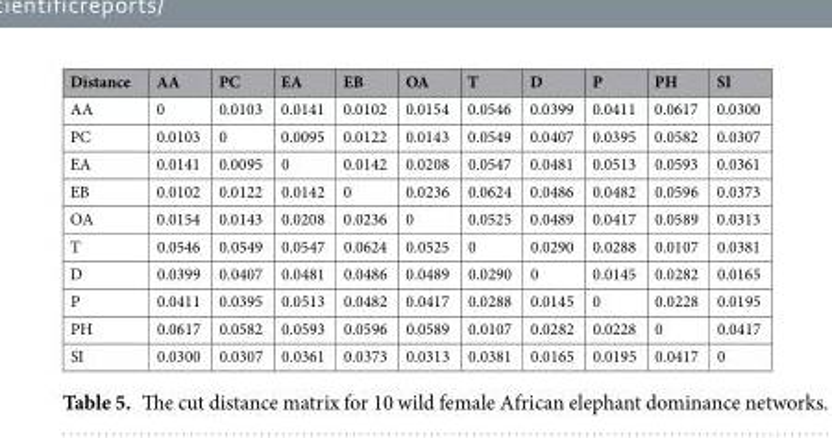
<table><thead><tr><td>Distance</td><td>AA</td><td>PC</td><td>EA</td><td>EB</td><td>OA</td><td>T</td><td>D</td><td>P</td><td>PH</td><td>SI</td></tr></thead><tbody><tr><td>AA</td><td>0</td><td>0.0103</td><td>0.0141</td><td>0.0102</td><td>0.0154</td><td>0.0546</td><td>0.0399</td><td>0.0411</td><td>0.0617</td><td>0.0300</td></tr><tr><td>PC</td><td>0.0103</td><td>0</td><td>0.0095</td><td>0.0122</td><td>0.0143</td><td>0.0549</td><td>0.0407</td><td>0.0395</td><td>0.0582</td><td>0.0307</td></tr><tr><td>EA</td><td>0.0141</td><td>0.0095</td><td>0</td><td>0.0142</td><td>0.0208</td><td>0.0547</td><td>0.0481</td><td>0.0513</td><td>0.0593</td><td>0.0361</td></tr><tr><td>EB</td><td>0.0102</td><td>0.0122</td><td>0.0142</td><td>0</td><td>0.0236</td><td>0.0624</td><td>0.0486</td><td>0.0482</td><td>0.0596</td><td>0.0373</td></tr><tr><td>OA</td><td>0.0154</td><td>0.0143</td><td>0.0208</td><td>0.0236</td><td>0</td><td>0.0525</td><td>0.0489</td><td>0.0417</td><td>0.0589</td><td>0.0313</td></tr><tr><td>T</td><td>0.0546</td><td>0.0549</td><td>0.0547</td><td>0.0624</td><td>0.0525</td><td>0</td><td>0.0290</td><td>0.0288</td><td>0.0107</td><td>0.0381</td></tr><tr><td>D</td><td>0.0399</td><td>0.0407</td><td>0.0481</td><td>0.0486</td><td>0.0489</td><td>0.0290</td><td>0</td><td>0.0145</td><td>0.0282</td><td>0.0165</td></tr><tr><td>P</td><td>0.0411</td><td>0.0395</td><td>0.0513</td><td>0.0482</td><td>0.0417</td><td>0.0288</td><td>0.0145</td><td>0</td><td>0.0228</td><td>0.0195</td></tr><tr><td>PH</td><td>0.0617</td><td>0.0582</td><td>0.0593</td><td>0.0596</td><td>0.0589</td><td>0.0107</td><td>0.0282</td><td>0.0228</td><td>0</td><td>0.0417</td></tr><tr><td>SI</td><td>0.0300</td><td>0.0307</td><td>0.0361</td><td>0.0373</td><td>0.0313</td><td>0.0381</td><td>0.0165</td><td>0.0195</td><td>0.0417</td><td>0</td></tr></tbody></table>